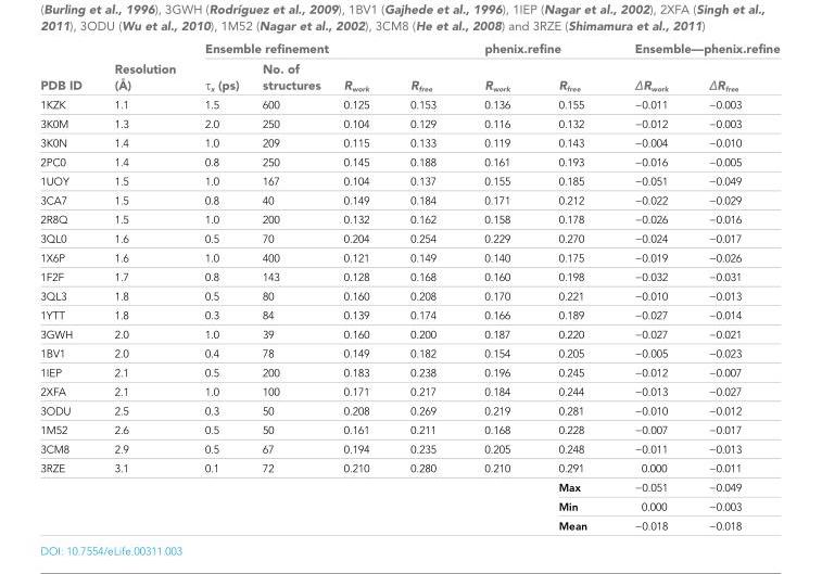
<table><thead><tr><td rowspan="2">PDB ID</td><td rowspan="2">Resolution (Å)</td><td colspan="4">Ensemble refinement</td><td colspan="2">phenix.refine</td><td colspan="2">Ensemble—phenix.refine</td></tr><tr><td>τ<sub>x</sub> (ps)</td><td>No. of structures</td><td>R<sub>work</sub></td><td>R<sub>free</sub></td><td>R<sub>work</sub></td><td>R<sub>free</sub></td><td>ΔR<sub>work</sub></td><td>ΔR<sub>free</sub></td></tr></thead><tbody><tr><td>1KZK</td><td>1.1</td><td>1.5</td><td>600</td><td>0.125</td><td>0.153</td><td>0.136</td><td>0.155</td><td>−0.011</td><td>−0.003</td></tr><tr><td>3K0M</td><td>1.3</td><td>2.0</td><td>250</td><td>0.104</td><td>0.129</td><td>0.116</td><td>0.132</td><td>−0.012</td><td>−0.003</td></tr><tr><td>3K0N</td><td>1.4</td><td>1.0</td><td>209</td><td>0.115</td><td>0.133</td><td>0.119</td><td>0.143</td><td>−0.004</td><td>−0.010</td></tr><tr><td>2PC0</td><td>1.4</td><td>0.8</td><td>250</td><td>0.145</td><td>0.188</td><td>0.161</td><td>0.193</td><td>−0.016</td><td>−0.005</td></tr><tr><td>1UOY</td><td>1.5</td><td>1.0</td><td>167</td><td>0.104</td><td>0.137</td><td>0.155</td><td>0.185</td><td>−0.051</td><td>−0.049</td></tr><tr><td>3CA7</td><td>1.5</td><td>0.8</td><td>40</td><td>0.149</td><td>0.184</td><td>0.171</td><td>0.212</td><td>−0.022</td><td>−0.029</td></tr><tr><td>2R8Q</td><td>1.5</td><td>1.0</td><td>200</td><td>0.132</td><td>0.162</td><td>0.158</td><td>0.178</td><td>−0.026</td><td>−0.016</td></tr><tr><td>3QL0</td><td>1.6</td><td>0.5</td><td>70</td><td>0.204</td><td>0.254</td><td>0.229</td><td>0.270</td><td>−0.024</td><td>−0.017</td></tr><tr><td>1X6P</td><td>1.6</td><td>1.0</td><td>400</td><td>0.121</td><td>0.149</td><td>0.140</td><td>0.175</td><td>−0.019</td><td>−0.026</td></tr><tr><td>1F2F</td><td>1.7</td><td>0.8</td><td>143</td><td>0.128</td><td>0.168</td><td>0.160</td><td>0.198</td><td>−0.032</td><td>−0.031</td></tr><tr><td>3QL3</td><td>1.8</td><td>0.5</td><td>80</td><td>0.160</td><td>0.208</td><td>0.170</td><td>0.221</td><td>−0.010</td><td>−0.013</td></tr><tr><td>1YTT</td><td>1.8</td><td>0.3</td><td>84</td><td>0.139</td><td>0.174</td><td>0.166</td><td>0.189</td><td>−0.027</td><td>−0.014</td></tr><tr><td>3GWH</td><td>2.0</td><td>1.0</td><td>39</td><td>0.160</td><td>0.200</td><td>0.187</td><td>0.220</td><td>−0.027</td><td>−0.021</td></tr><tr><td>1BV1</td><td>2.0</td><td>0.4</td><td>78</td><td>0.149</td><td>0.182</td><td>0.154</td><td>0.205</td><td>−0.005</td><td>−0.023</td></tr><tr><td>1IEP</td><td>2.1</td><td>0.5</td><td>200</td><td>0.183</td><td>0.238</td><td>0.196</td><td>0.245</td><td>−0.012</td><td>−0.007</td></tr><tr><td>2XFA</td><td>2.1</td><td>1.0</td><td>100</td><td>0.171</td><td>0.217</td><td>0.184</td><td>0.244</td><td>−0.013</td><td>−0.027</td></tr><tr><td>3ODU</td><td>2.5</td><td>0.3</td><td>50</td><td>0.208</td><td>0.269</td><td>0.219</td><td>0.281</td><td>−0.010</td><td>−0.012</td></tr><tr><td>1M52</td><td>2.6</td><td>0.5</td><td>50</td><td>0.161</td><td>0.211</td><td>0.168</td><td>0.228</td><td>−0.007</td><td>−0.017</td></tr><tr><td>3CM8</td><td>2.9</td><td>0.5</td><td>67</td><td>0.194</td><td>0.235</td><td>0.205</td><td>0.248</td><td>−0.011</td><td>−0.013</td></tr><tr><td>3RZE</td><td>3.1</td><td>0.1</td><td>72</td><td>0.210</td><td>0.280</td><td>0.210</td><td>0.291</td><td>0.000</td><td>−0.011</td></tr><tr><td rowspan="3" colspan="7"></td><td>Max</td><td>−0.051</td><td>−0.049</td></tr><tr><td>Min</td><td>0.000</td><td>−0.003</td></tr><tr><td>Mean</td><td>−0.018</td><td>−0.018</td></tr></tbody></table>